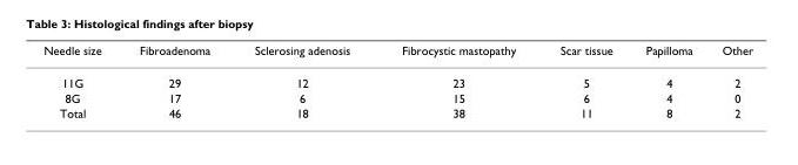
<table><thead><tr><td>Needle size</td><td>Fibroadenoma</td><td>Sclerosing adenosis</td><td>Fibrocystic mastopathy</td><td>Scar tissue</td><td>Papilloma</td><td>Other</td></tr></thead><tbody><tr><td>11G</td><td>29</td><td>12</td><td>23</td><td>5</td><td>4</td><td>2</td></tr><tr><td>8G</td><td>17</td><td>6</td><td>15</td><td>6</td><td>4</td><td>0</td></tr><tr><td>Total</td><td>46</td><td>18</td><td>38</td><td>11</td><td>8</td><td>2</td></tr></tbody></table>